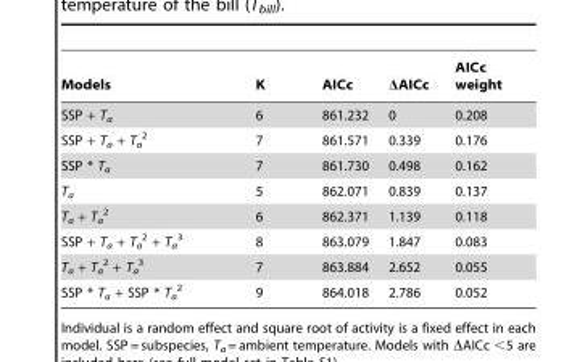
<table><thead><tr><td>Models</td><td>K</td><td>AICc</td><td>ΔAICc</td><td>AICc weight</td></tr></thead><tbody><tr><td>SSP + T<sub>a</sub></td><td>6</td><td>861.232</td><td>0</td><td>0.208</td></tr><tr><td>SSP + T<sub>a</sub> + T<sub>a</sub> <sup>2</sup></td><td>7</td><td>861.571</td><td>0.339</td><td>0.176</td></tr><tr><td>SSP * T<sub>a</sub></td><td>7</td><td>861.730</td><td>0.498</td><td>0.162</td></tr><tr><td>T<sub>a</sub></td><td>5</td><td>862.071</td><td>0.839</td><td>0.137</td></tr><tr><td>T<sub>a</sub> + T<sub>a</sub> <sup>2</sup></td><td>6</td><td>862.371</td><td>1.139</td><td>0.118</td></tr><tr><td>SSP + T<sub>a</sub> + T<sub>a</sub> <sup>2</sup> + T<sub>a</sub> <sup>3</sup></td><td>8</td><td>863.079</td><td>1.847</td><td>0.083</td></tr><tr><td>T<sub>a</sub> + T<sub>a</sub> <sup>2</sup> + T<sub>a</sub> <sup>3</sup></td><td>7</td><td>863.884</td><td>2.652</td><td>0.055</td></tr><tr><td>SSP * T<sub>a</sub> + SSP * T<sub>a</sub> <sup>2</sup></td><td>9</td><td>864.018</td><td>2.786</td><td>0.052</td></tr></tbody></table>